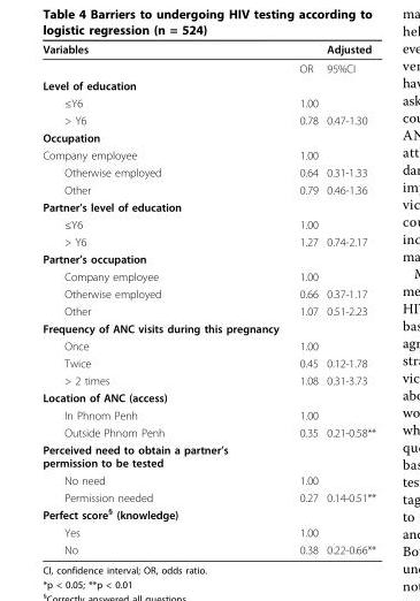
<table><thead><tr><td>Variables</td><td></td><td>Adjusted</td></tr></thead><tbody><tr><td></td><td>OR</td><td>95%CI</td></tr><tr><td colspan="3">Level of education</td></tr><tr><td>≤Y6</td><td>1.00</td><td></td></tr><tr><td>&gt; Y6</td><td>0.78</td><td>0.47-1.30</td></tr><tr><td colspan="3">Occupation</td></tr><tr><td>Company employee</td><td>1.00</td><td></td></tr><tr><td>Otherwise employed</td><td>0.64</td><td>0.31-1.33</td></tr><tr><td>Other</td><td>0.79</td><td>0.46-1.36</td></tr><tr><td colspan="3">Partner’s level of education</td></tr><tr><td>≤Y6</td><td>1.00</td><td></td></tr><tr><td>&gt; Y6</td><td>1.27</td><td>0.74-2.17</td></tr><tr><td colspan="3">Partner’s occupation</td></tr><tr><td>Company employee</td><td>1.00</td><td></td></tr><tr><td>Otherwise employed</td><td>0.66</td><td>0.37-1.17</td></tr><tr><td>Other</td><td>1.07</td><td>0.51-2.23</td></tr><tr><td colspan="3">Frequency of ANC visits during this pregnancy</td></tr><tr><td>Once</td><td>1.00</td><td></td></tr><tr><td>Twice</td><td>0.45</td><td>0.12-1.78</td></tr><tr><td>&gt; 2 times</td><td>1.08</td><td>0.31-3.73</td></tr><tr><td colspan="3">Location of ANC (access)</td></tr><tr><td>In Phnom Penh</td><td>1.00</td><td></td></tr><tr><td>Outside Phnom Penh</td><td>0.35</td><td>0.21-0.58**</td></tr><tr><td colspan="3">Perceived need to obtain a partner’s permission to be tested</td></tr><tr><td>No need</td><td>1.00</td><td></td></tr><tr><td>Permission needed</td><td>0.27</td><td>0.14-0.51**</td></tr><tr><td colspan="3">Perfect score<sup>§</sup> (knowledge)</td></tr><tr><td>Yes</td><td>1.00</td><td></td></tr><tr><td>No</td><td>0.38</td><td>0.22-0.66**</td></tr></tbody></table>